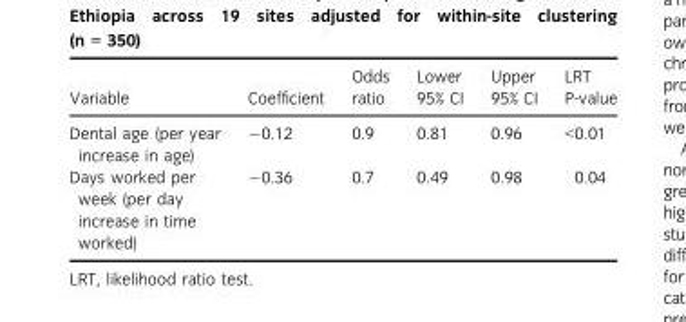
<table><thead><tr><td>Variable</td><td>Coefficient</td><td>Odds ratio</td><td>Lower 95% CI</td><td>Upper 95% CI</td><td>LRT P-value</td></tr></thead><tbody><tr><td>Dental age (per year increase in age)</td><td>−0.12</td><td>0.9</td><td>0.81</td><td>0.96</td><td>&lt;0.01</td></tr><tr><td>Days worked per week (per day increase in time worked)</td><td>−0.36</td><td>0.7</td><td>0.49</td><td>0.98</td><td>0.04</td></tr></tbody></table>